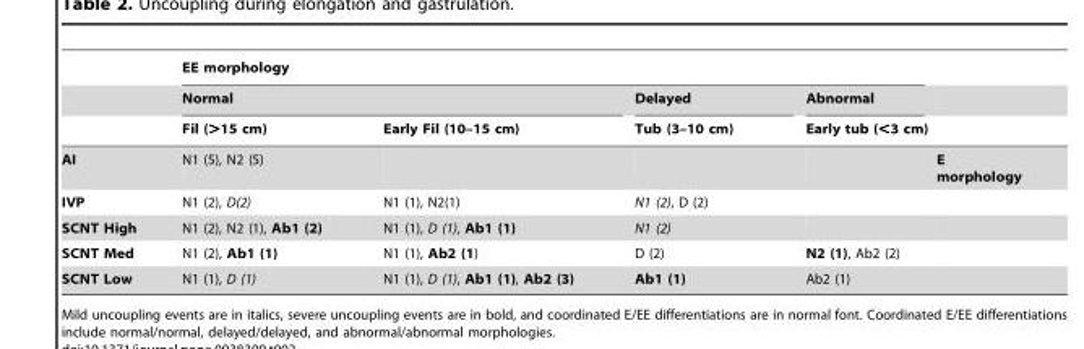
<table><thead><tr><td rowspan="3"></td><td colspan="4">EE morphology</td><td rowspan="3"></td></tr><tr><td colspan="2">Normal</td><td rowspan="2">Delayed Tub (3–10 cm)</td><td rowspan="2">Abnormal Early tub (&lt;3 cm)</td></tr><tr><td>Fil (&gt;15 cm)</td><td>Early Fil (10–15 cm)</td></tr></thead><tbody><tr><td>AI</td><td>N1 (5), N2 (5)</td><td></td><td></td><td></td><td>E morphology</td></tr><tr><td>IVP</td><td>N1 (2), D(2)</td><td>N1 (1), N2(1)</td><td>N1 (2), D (2)</td><td></td><td></td></tr><tr><td>SCNT High</td><td>N1 (2), N2 (1), Ab1 (2)</td><td>N1 (1), D (1), Ab1 (1)</td><td>N1 (2)</td><td></td><td></td></tr><tr><td>SCNT Med</td><td>N1 (2), Ab1 (1)</td><td>N1 (1), Ab2 (1)</td><td>D (2)</td><td>N2 (1), Ab2 (2)</td><td></td></tr><tr><td>SCNT Low</td><td>N1 (1), D (1)</td><td>N1 (1), D (1), Ab1 (1), Ab2 (3)</td><td>Ab1 (1)</td><td>Ab2 (1)</td><td></td></tr></tbody></table>